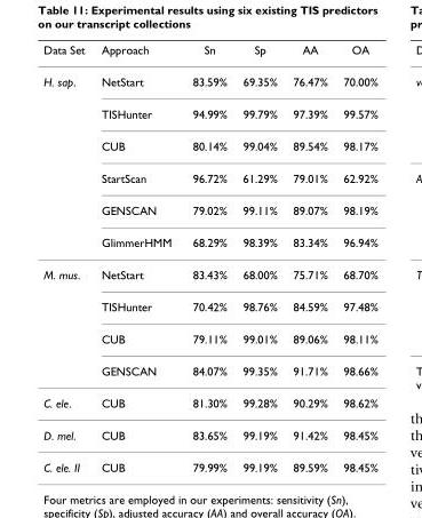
<table><thead><tr><td>Data Set</td><td>Approach</td><td>Sn</td><td>Sp</td><td>AA</td><td>OA</td></tr></thead><tbody><tr><td rowspan="6">H. sap.</td><td>NetStart</td><td>83.59%</td><td>69.35%</td><td>76.47%</td><td>70.00%</td></tr><tr><td>TISHunter</td><td>94.99%</td><td>99.79%</td><td>97.39%</td><td>99.57%</td></tr><tr><td>CUB</td><td>80.14%</td><td>99.04%</td><td>89.54%</td><td>98.17%</td></tr><tr><td>StartScan</td><td>96.72%</td><td>61.29%</td><td>79.01%</td><td>62.92%</td></tr><tr><td>GENSCAN</td><td>79.02%</td><td>99.11%</td><td>89.07%</td><td>98.19%</td></tr><tr><td>GlimmerHMM</td><td>68.29%</td><td>98.39%</td><td>83.34%</td><td>96.94%</td></tr><tr><td rowspan="4">M. mus.</td><td>NetStart</td><td>83.43%</td><td>68.00%</td><td>75.71%</td><td>68.70%</td></tr><tr><td>TISHunter</td><td>70.42%</td><td>98.76%</td><td>84.59%</td><td>97.48%</td></tr><tr><td>CUB</td><td>79.11%</td><td>99.01%</td><td>89.06%</td><td>98.11%</td></tr><tr><td>GENSCAN</td><td>84.07%</td><td>99.35%</td><td>91.71%</td><td>98.66%</td></tr><tr><td>C. ele.</td><td>CUB</td><td>81.30%</td><td>99.28%</td><td>90.29%</td><td>98.62%</td></tr><tr><td>D. mel.</td><td>CUB</td><td>83.65%</td><td>99.19%</td><td>91.42%</td><td>98.45%</td></tr><tr><td>C. ele. II</td><td>CUB</td><td>79.99%</td><td>99.19%</td><td>89.59%</td><td>98.45%</td></tr></tbody></table>